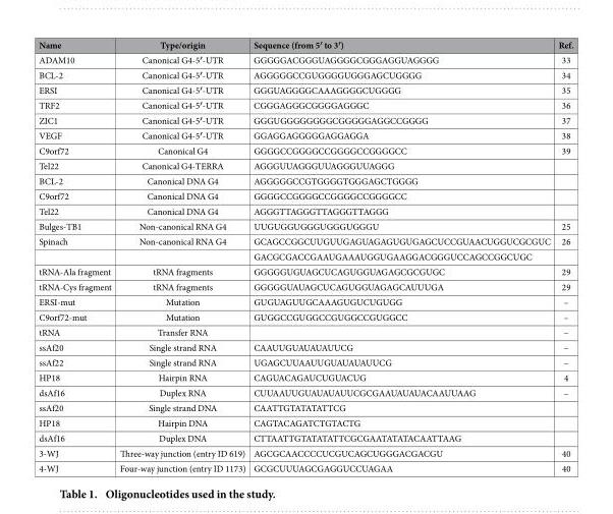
<table><thead><tr><td>Name</td><td>Type/origin</td><td>Sequence (from 5′ to 3′)</td><td>Ref.</td></tr></thead><tbody><tr><td>ADAM10</td><td>Canonical G4-5′-UTR</td><td>GGGGGACGGGUAGGGGCGGGAGGUAGGGG</td><td>33</td></tr><tr><td>BCL-2</td><td>Canonical G4-5′-UTR</td><td>AGGGGGCCGUGGGGUGGGAGCUGGGG</td><td>34</td></tr><tr><td>ERSI</td><td>Canonical G4-5′-UTR</td><td>GGGUAGGGGCAAAGGGGCUGGGG</td><td>35</td></tr><tr><td>TRF2</td><td>Canonical G4-5′-UTR</td><td>CGGGAGGGCGGGGAGGGC</td><td>36</td></tr><tr><td>ZIC1</td><td>Canonical G4-5′-UTR</td><td>GGGUGGGGGGGGCGGGGGAGGCCGGGG</td><td>37</td></tr><tr><td>VEGF</td><td>Canonical G4-5′-UTR</td><td>GGAGGAGGGGGAGGAGGA</td><td>38</td></tr><tr><td>C9orf72</td><td>Canonical G4</td><td>GGGGCCGGGGCCGGGGCCGGGGCC</td><td>39</td></tr><tr><td>Tel22</td><td>Canonical G4-TERRA</td><td>AGGGUUAGGGUUAGGGUUAGGG</td><td></td></tr><tr><td>BCL-2</td><td>Canonical DNA G4</td><td>AGGGGGCCGTGGGGTGGGAGCTGGGG</td><td></td></tr><tr><td>C9orf72</td><td>Canonical DNA G4</td><td>GGGGCCGGGGCCGGGGCCGGGGCC</td><td></td></tr><tr><td>Tel22</td><td>Canonical DNA G4</td><td>AGGGTTAGGGTTAGGGTTAGGG</td><td></td></tr><tr><td>Bulges-TB1</td><td>Non-canonical RNA G4</td><td>UUGUGGUGGGUGGGUGGGU</td><td>25</td></tr><tr><td rowspan="2">Spinach</td><td>Non-canonical RNA G4</td><td>GCAGCCGGCUUGUUGAGUAGAGUGUGAGCUCCGUAACUGGUCGCGUC</td><td>26</td></tr><tr><td></td><td>GACGCGACCGAAUGAAAUGGUGAAGGACGGGUCCAGCCGGCUGC</td><td></td></tr><tr><td>tRNA-Ala fragment</td><td>tRNA fragments</td><td>GGGGGUGUAGCUCAGUGGUAGAGCGCGUGC</td><td>29</td></tr><tr><td>tRNA-Cys fragment</td><td>tRNA fragments</td><td>GGGGGUAUAGCUCAGUGGUAGAGCAUUUGA</td><td>29</td></tr><tr><td>ERSI-mut</td><td>Mutation</td><td>GUGUAGUUGCAAAGUGUCUGUGG</td><td>–</td></tr><tr><td>C9orf72-mut</td><td>Mutation</td><td>GUGGCCGUGGCCGUGGCCGUGGCC</td><td>–</td></tr><tr><td>tRNA</td><td>Transfer RNA</td><td></td><td>–</td></tr><tr><td>ssAf20</td><td>Single strand RNA</td><td>CAAUUGUAUAUAUUCG</td><td>–</td></tr><tr><td>ssAf22</td><td>Single strand RNA</td><td>UGAGCUUAAUUGUAUAUAUUCG</td><td>–</td></tr><tr><td>HP18</td><td>Hairpin RNA</td><td>CAGUACAGAUCUGUACUG</td><td>4</td></tr><tr><td>dsAf16</td><td>Duplex RNA</td><td>CUUAAUUGUAUAUAUUCGCGAAUAUAUACAAUUAAG</td><td>–</td></tr><tr><td>ssAf20</td><td>Single strand DNA</td><td>CAATTGTATATATTCG</td><td></td></tr><tr><td>HP18</td><td>Hairpin DNA</td><td>CAGTACAGATCTGTACTG</td><td></td></tr><tr><td>dsAf16</td><td>Duplex DNA</td><td>CTTAATTGTATATATTCGCGAATATATACAATTAAG</td><td></td></tr><tr><td>3-WJ</td><td>Three-way junction (entry ID 619)</td><td>AGCGCAACCCCUCGUCAGCUGGGACGACGU</td><td>40</td></tr><tr><td>4-WJ</td><td>Four-way junction (entry ID 1173)</td><td>GCGCUUUAGCGAGGUCCUAGAA</td><td>40</td></tr></tbody></table>